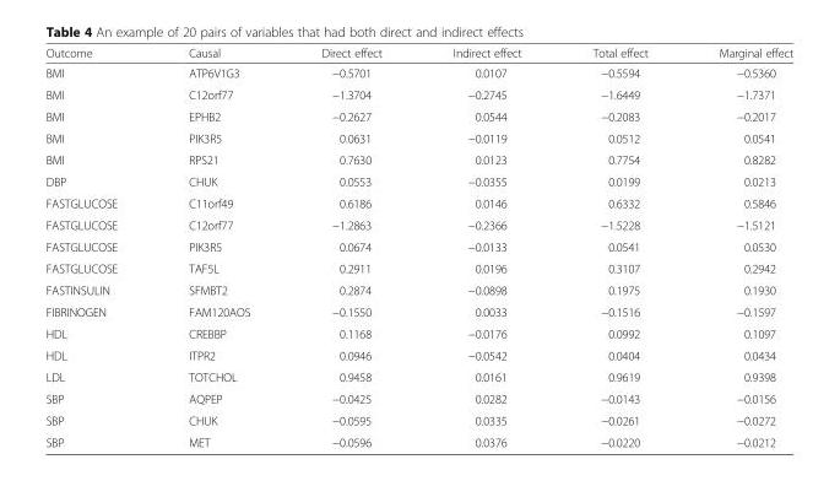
<table><thead><tr><td>Outcome</td><td>Causal</td><td>Direct effect</td><td>Indirect effect</td><td>Total effect</td><td>Marginal effect</td></tr></thead><tbody><tr><td>BMI</td><td>ATP6V1G3</td><td>−0.5701</td><td>0.0107</td><td>−0.5594</td><td>−0.5360</td></tr><tr><td>BMI</td><td>C12orf77</td><td>−1.3704</td><td>−0.2745</td><td>−1.6449</td><td>−1.7371</td></tr><tr><td>BMI</td><td>EPHB2</td><td>−0.2627</td><td>0.0544</td><td>−0.2083</td><td>−0.2017</td></tr><tr><td>BMI</td><td>PIK3R5</td><td>0.0631</td><td>−0.0119</td><td>0.0512</td><td>0.0541</td></tr><tr><td>BMI</td><td>RPS21</td><td>0.7630</td><td>0.0123</td><td>0.7754</td><td>0.8282</td></tr><tr><td>DBP</td><td>CHUK</td><td>0.0553</td><td>−0.0355</td><td>0.0199</td><td>0.0213</td></tr><tr><td>FASTGLUCOSE</td><td>C11orf49</td><td>0.6186</td><td>0.0146</td><td>0.6332</td><td>0.5846</td></tr><tr><td>FASTGLUCOSE</td><td>C12orf77</td><td>−1.2863</td><td>−0.2366</td><td>−1.5228</td><td>−1.5121</td></tr><tr><td>FASTGLUCOSE</td><td>PIK3R5</td><td>0.0674</td><td>−0.0133</td><td>0.0541</td><td>0.0530</td></tr><tr><td>FASTGLUCOSE</td><td>TAF5L</td><td>0.2911</td><td>0.0196</td><td>0.3107</td><td>0.2942</td></tr><tr><td>FASTINSULIN</td><td>SFMBT2</td><td>0.2874</td><td>−0.0898</td><td>0.1975</td><td>0.1930</td></tr><tr><td>FIBRINOGEN</td><td>FAM120AOS</td><td>−0.1550</td><td>0.0033</td><td>−0.1516</td><td>−0.1597</td></tr><tr><td>HDL</td><td>CREBBP</td><td>0.1168</td><td>−0.0176</td><td>0.0992</td><td>0.1097</td></tr><tr><td>HDL</td><td>ITPR2</td><td>0.0946</td><td>−0.0542</td><td>0.0404</td><td>0.0434</td></tr><tr><td>LDL</td><td>TOTCHOL</td><td>0.9458</td><td>0.0161</td><td>0.9619</td><td>0.9398</td></tr><tr><td>SBP</td><td>AQPEP</td><td>−0.0425</td><td>0.0282</td><td>−0.0143</td><td>−0.0156</td></tr><tr><td>SBP</td><td>CHUK</td><td>−0.0595</td><td>0.0335</td><td>−0.0261</td><td>−0.0272</td></tr><tr><td>SBP</td><td>MET</td><td>−0.0596</td><td>0.0376</td><td>−0.0220</td><td>−0.0212</td></tr></tbody></table>